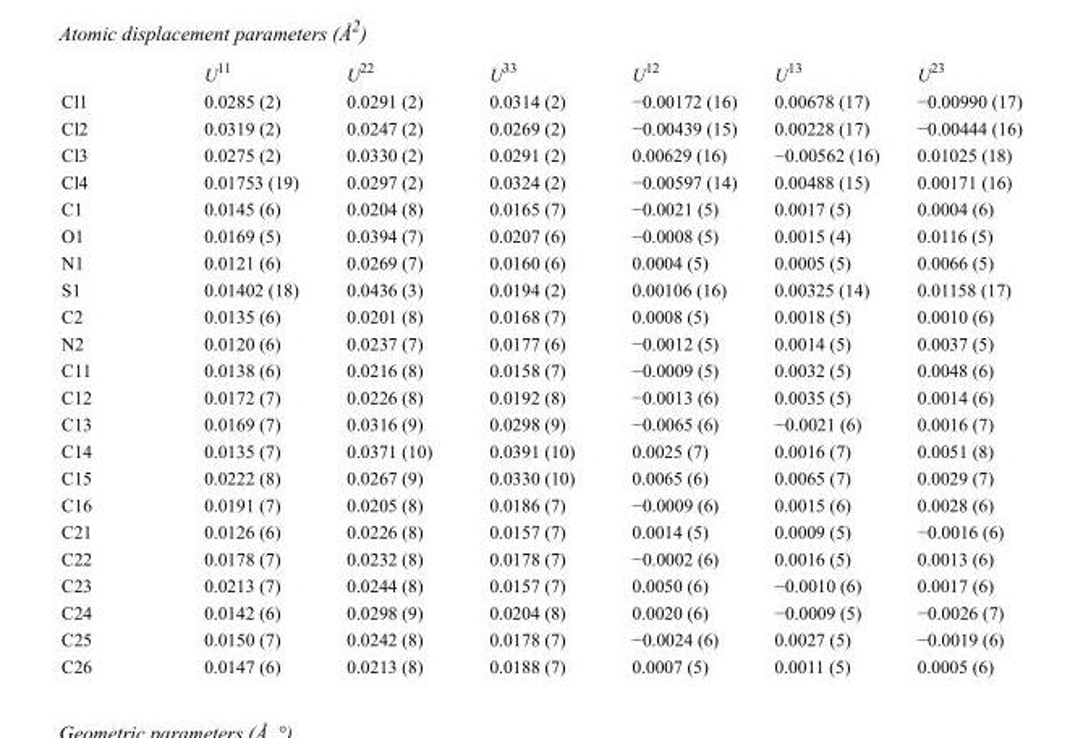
<table><thead><tr><td></td><td>U<sup>11</sup></td><td>U<sup>22</sup></td><td>U<sup>33</sup></td><td>U<sup>12</sup></td><td>U<sup>13</sup></td><td>U<sup>23</sup></td></tr></thead><tbody><tr><td>Cl1</td><td>0.0285 (2)</td><td>0.0291 (2)</td><td>0.0314 (2)</td><td>−0.00172 (16)</td><td>0.00678 (17)</td><td>−0.00990 (17)</td></tr><tr><td>Cl2</td><td>0.0319 (2)</td><td>0.0247 (2)</td><td>0.0269 (2)</td><td>−0.00439 (15)</td><td>0.00228 (17)</td><td>−0.00444 (16)</td></tr><tr><td>Cl3</td><td>0.0275 (2)</td><td>0.0330 (2)</td><td>0.0291 (2)</td><td>0.00629 (16)</td><td>−0.00562 (16)</td><td>0.01025 (18)</td></tr><tr><td>Cl4</td><td>0.01753 (19)</td><td>0.0297 (2)</td><td>0.0324 (2)</td><td>−0.00597 (14)</td><td>0.00488 (15)</td><td>0.00171 (16)</td></tr><tr><td>C1</td><td>0.0145 (6)</td><td>0.0204 (8)</td><td>0.0165 (7)</td><td>−0.0021 (5)</td><td>0.0017 (5)</td><td>0.0004 (6)</td></tr><tr><td>O1</td><td>0.0169 (5)</td><td>0.0394 (7)</td><td>0.0207 (6)</td><td>−0.0008 (5)</td><td>0.0015 (4)</td><td>0.0116 (5)</td></tr><tr><td>N1</td><td>0.0121 (6)</td><td>0.0269 (7)</td><td>0.0160 (6)</td><td>0.0004 (5)</td><td>0.0005 (5)</td><td>0.0066 (5)</td></tr><tr><td>S1</td><td>0.01402 (18)</td><td>0.0436 (3)</td><td>0.0194 (2)</td><td>0.00106 (16)</td><td>0.00325 (14)</td><td>0.01158 (17)</td></tr><tr><td>C2</td><td>0.0135 (6)</td><td>0.0201 (8)</td><td>0.0168 (7)</td><td>0.0008 (5)</td><td>0.0018 (5)</td><td>0.0010 (6)</td></tr><tr><td>N2</td><td>0.0120 (6)</td><td>0.0237 (7)</td><td>0.0177 (6)</td><td>−0.0012 (5)</td><td>0.0014 (5)</td><td>0.0037 (5)</td></tr><tr><td>C11</td><td>0.0138 (6)</td><td>0.0216 (8)</td><td>0.0158 (7)</td><td>−0.0009 (5)</td><td>0.0032 (5)</td><td>0.0048 (6)</td></tr><tr><td>C12</td><td>0.0172 (7)</td><td>0.0226 (8)</td><td>0.0192 (8)</td><td>−0.0013 (6)</td><td>0.0035 (5)</td><td>0.0014 (6)</td></tr><tr><td>C13</td><td>0.0169 (7)</td><td>0.0316 (9)</td><td>0.0298 (9)</td><td>−0.0065 (6)</td><td>−0.0021 (6)</td><td>0.0016 (7)</td></tr><tr><td>C14</td><td>0.0135 (7)</td><td>0.0371 (10)</td><td>0.0391 (10)</td><td>0.0025 (7)</td><td>0.0016 (7)</td><td>0.0051 (8)</td></tr><tr><td>C15</td><td>0.0222 (8)</td><td>0.0267 (9)</td><td>0.0330 (10)</td><td>0.0065 (6)</td><td>0.0065 (7)</td><td>0.0029 (7)</td></tr><tr><td>C16</td><td>0.0191 (7)</td><td>0.0205 (8)</td><td>0.0186 (7)</td><td>−0.0009 (6)</td><td>0.0015 (6)</td><td>0.0028 (6)</td></tr><tr><td>C21</td><td>0.0126 (6)</td><td>0.0226 (8)</td><td>0.0157 (7)</td><td>0.0014 (5)</td><td>0.0009 (5)</td><td>−0.0016 (6)</td></tr><tr><td>C22</td><td>0.0178 (7)</td><td>0.0232 (8)</td><td>0.0178 (7)</td><td>−0.0002 (6)</td><td>0.0016 (5)</td><td>0.0013 (6)</td></tr><tr><td>C23</td><td>0.0213 (7)</td><td>0.0244 (8)</td><td>0.0157 (7)</td><td>0.0050 (6)</td><td>−0.0010 (6)</td><td>0.0017 (6)</td></tr><tr><td>C24</td><td>0.0142 (6)</td><td>0.0298 (9)</td><td>0.0204 (8)</td><td>0.0020 (6)</td><td>−0.0009 (5)</td><td>−0.0026 (7)</td></tr><tr><td>C25</td><td>0.0150 (7)</td><td>0.0242 (8)</td><td>0.0178 (7)</td><td>−0.0024 (6)</td><td>0.0027 (5)</td><td>−0.0019 (6)</td></tr><tr><td>C26</td><td>0.0147 (6)</td><td>0.0213 (8)</td><td>0.0188 (7)</td><td>0.0007 (5)</td><td>0.0011 (5)</td><td>0.0005 (6)</td></tr></tbody></table>